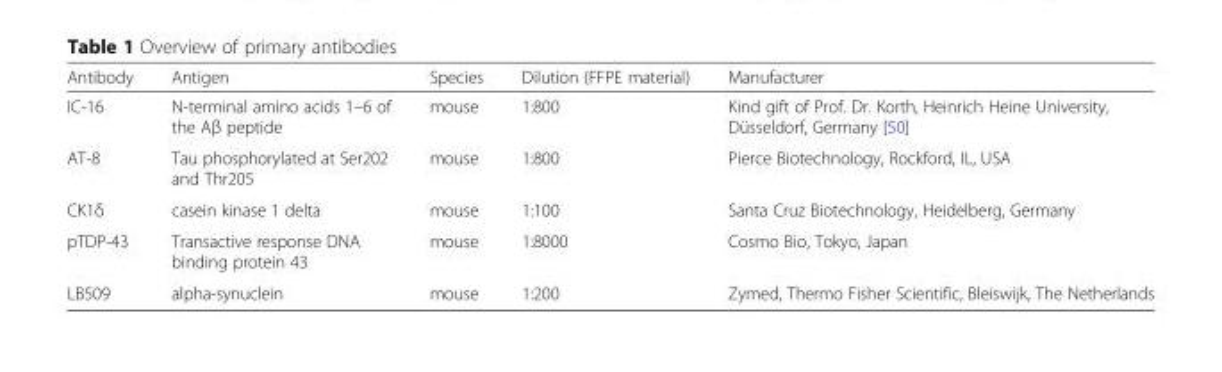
<table><thead><tr><td>Antibody</td><td>Antigen</td><td>Species</td><td>Dilution (FFPE material)</td><td>Manufacturer</td></tr></thead><tbody><tr><td>IC-16</td><td>N-terminal amino acids 1–6 of the Aβ peptide</td><td>mouse</td><td>1:800</td><td>Kind gift of Prof. Dr. Korth, Heinrich Heine University, Düsseldorf, Germany [50]</td></tr><tr><td>AT-8</td><td>Tau phosphorylated at Ser202 and Thr205</td><td>mouse</td><td>1:800</td><td>Pierce Biotechnology, Rockford, IL, USA</td></tr><tr><td>CK1δ</td><td>casein kinase 1 delta</td><td>mouse</td><td>1:100</td><td>Santa Cruz Biotechnology, Heidelberg, Germany</td></tr><tr><td>pTDP-43</td><td>Transactive response DNA binding protein 43</td><td>mouse</td><td>1:8000</td><td>Cosmo Bio, Tokyo, Japan</td></tr><tr><td>LB509</td><td>alpha-synuclein</td><td>mouse</td><td>1:200</td><td>Zymed, Thermo Fisher Scientific, Bleiswijk, The Netherlands</td></tr></tbody></table>